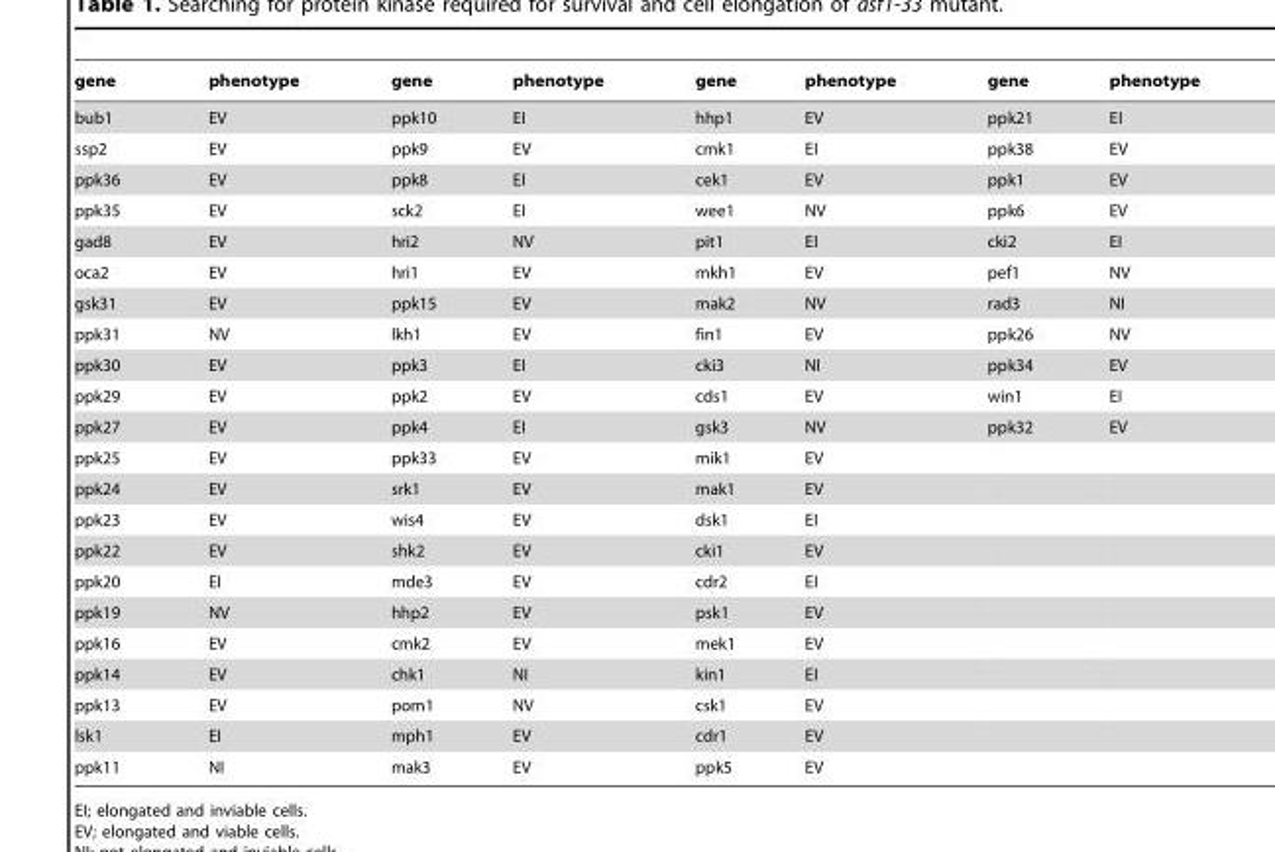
<table><thead><tr><td>gene</td><td>phenotype</td><td>gene</td><td>phenotype</td><td>gene</td><td>phenotype</td><td>gene</td><td>phenotype</td></tr></thead><tbody><tr><td>bub1</td><td>EV</td><td>ppk10</td><td>EI</td><td>hhp1</td><td>EV</td><td>ppk21</td><td>EI</td></tr><tr><td>ssp2</td><td>EV</td><td>ppk9</td><td>EV</td><td>cmk1</td><td>EI</td><td>ppk38</td><td>EV</td></tr><tr><td>ppk36</td><td>EV</td><td>ppk8</td><td>EI</td><td>cek1</td><td>EV</td><td>ppk1</td><td>EV</td></tr><tr><td>ppk35</td><td>EV</td><td>sck2</td><td>EI</td><td>wee1</td><td>NV</td><td>ppk6</td><td>EV</td></tr><tr><td>gad8</td><td>EV</td><td>hri2</td><td>NV</td><td>pit1</td><td>EI</td><td>cki2</td><td>EI</td></tr><tr><td>oca2</td><td>EV</td><td>hri1</td><td>EV</td><td>mkh1</td><td>EV</td><td>pef1</td><td>NV</td></tr><tr><td>gsk31</td><td>EV</td><td>ppk15</td><td>EV</td><td>mak2</td><td>NV</td><td>rad3</td><td>NI</td></tr><tr><td>ppk31</td><td>NV</td><td>lkh1</td><td>EV</td><td>fin1</td><td>EV</td><td>ppk26</td><td>NV</td></tr><tr><td>ppk30</td><td>EV</td><td>ppk3</td><td>EI</td><td>cki3</td><td>NI</td><td>ppk34</td><td>EV</td></tr><tr><td>ppk29</td><td>EV</td><td>ppk2</td><td>EV</td><td>cds1</td><td>EV</td><td>win1</td><td>EI</td></tr><tr><td>ppk27</td><td>EV</td><td>ppk4</td><td>EI</td><td>gsk3</td><td>NV</td><td>ppk32</td><td>EV</td></tr><tr><td>ppk25</td><td>EV</td><td>ppk33</td><td>EV</td><td>mik1</td><td>EV</td><td></td><td></td></tr><tr><td>ppk24</td><td>EV</td><td>srk1</td><td>EV</td><td>mak1</td><td>EV</td><td></td><td></td></tr><tr><td>ppk23</td><td>EV</td><td>wis4</td><td>EV</td><td>dsk1</td><td>EI</td><td></td><td></td></tr><tr><td>ppk22</td><td>EV</td><td>shk2</td><td>EV</td><td>cki1</td><td>EV</td><td></td><td></td></tr><tr><td>ppk20</td><td>EI</td><td>mde3</td><td>EV</td><td>cdr2</td><td>EI</td><td></td><td></td></tr><tr><td>ppk19</td><td>NV</td><td>hhp2</td><td>EV</td><td>psk1</td><td>EV</td><td></td><td></td></tr><tr><td>ppk16</td><td>EV</td><td>cmk2</td><td>EV</td><td>mek1</td><td>EV</td><td></td><td></td></tr><tr><td>ppk14</td><td>EV</td><td>chk1</td><td>NI</td><td>kin1</td><td>EI</td><td></td><td></td></tr><tr><td>ppk13</td><td>EV</td><td>pom1</td><td>NV</td><td>csk1</td><td>EV</td><td></td><td></td></tr><tr><td>lsk1</td><td>EI</td><td>mph1</td><td>EV</td><td>cdr1</td><td>EV</td><td></td><td></td></tr><tr><td>ppk11</td><td>NI</td><td>mak3</td><td>EV</td><td>ppk5</td><td>EV</td><td></td><td></td></tr></tbody></table>